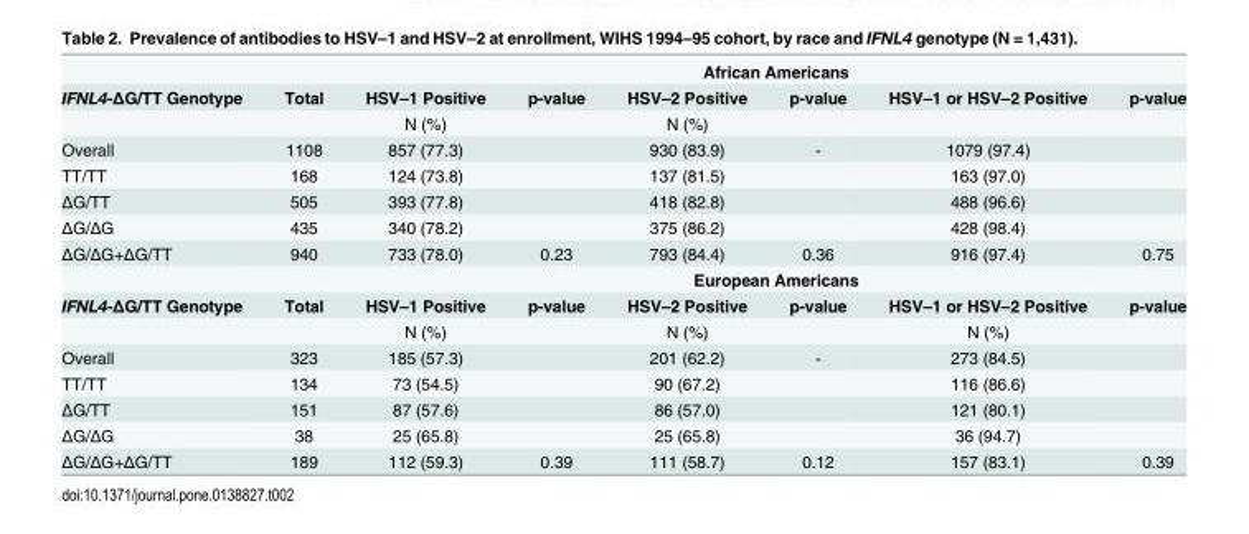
<table><thead><tr><td rowspan="2">IFNL4-ΔG/TT Genotype</td><td rowspan="2">Total</td><td colspan="6">African Americans</td></tr><tr><td>HSV–1 Positive</td><td>p-value</td><td>HSV–2 Positive</td><td>p-value</td><td>HSV–1 or HSV–2 Positive</td><td>p-value</td></tr></thead><tbody><tr><td></td><td></td><td>N (%)</td><td></td><td>N (%)</td><td></td><td></td><td></td></tr><tr><td>Overall</td><td>1108</td><td>857 (77.3)</td><td></td><td>930 (83.9)</td><td>-</td><td>1079 (97.4)</td><td></td></tr><tr><td>TT/TT</td><td>168</td><td>124 (73.8)</td><td></td><td>137 (81.5)</td><td></td><td>163 (97.0)</td><td></td></tr><tr><td>ΔG/TT</td><td>505</td><td>393 (77.8)</td><td></td><td>418 (82.8)</td><td></td><td>488 (96.6)</td><td></td></tr><tr><td>ΔG/ΔG</td><td>435</td><td>340 (78.2)</td><td></td><td>375 (86.2)</td><td></td><td>428 (98.4)</td><td></td></tr><tr><td rowspan="2">ΔG/ΔG+ΔG/TT</td><td>940</td><td>733 (78.0)</td><td>0.23</td><td>793 (84.4)</td><td>0.36</td><td>916 (97.4)</td><td>0.75</td></tr><tr><td></td><td colspan="6">European Americans</td></tr><tr><td rowspan="2">IFNL4-ΔG/TT Genotype</td><td>Total</td><td>HSV–1 Positive</td><td>p-value</td><td>HSV–2 Positive</td><td>p-value</td><td>HSV–1 or HSV–2 Positive</td><td>p-value</td></tr><tr><td></td><td>N (%)</td><td></td><td>N (%)</td><td></td><td>N (%)</td><td></td></tr><tr><td>Overall</td><td>323</td><td>185 (57.3)</td><td></td><td>201 (62.2)</td><td>-</td><td>273 (84.5)</td><td></td></tr><tr><td>TT/TT</td><td>134</td><td>73 (54.5)</td><td></td><td>90 (67.2)</td><td></td><td>116 (86.6)</td><td></td></tr><tr><td>ΔG/TT</td><td>151</td><td>87 (57.6)</td><td></td><td>86 (57.0)</td><td></td><td>121 (80.1)</td><td></td></tr><tr><td>ΔG/ΔG</td><td>38</td><td>25 (65.8)</td><td></td><td>25 (65.8)</td><td></td><td>36 (94.7)</td><td></td></tr><tr><td>ΔG/ΔG+ΔG/TT</td><td>189</td><td>112 (59.3)</td><td>0.39</td><td>111 (58.7)</td><td>0.12</td><td>157 (83.1)</td><td>0.39</td></tr></tbody></table>